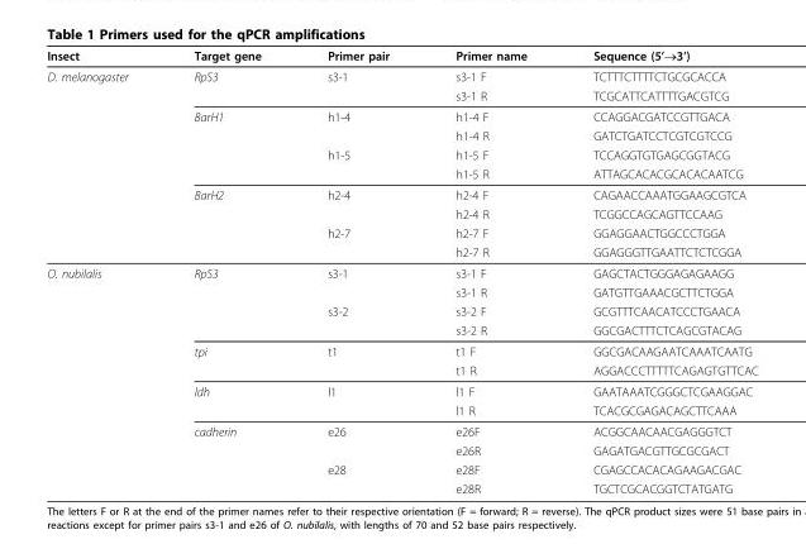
<table><thead><tr><td>Insect</td><td>Target gene</td><td>Primer pair</td><td>Primer name</td><td>Sequence (5’→3’)</td></tr></thead><tbody><tr><td rowspan="10">D. melanogaster</td><td>RpS3</td><td>s3-1</td><td>s3-1 F</td><td>TCTTTCTTTTCTGCGCACCA</td></tr><tr><td></td><td></td><td>s3-1 R</td><td>TCGCATTCATTTTGACGTCG</td></tr><tr><td>BarH1</td><td>h1-4</td><td>h1-4 F</td><td>CCAGGACGATCCGTTGACA</td></tr><tr><td></td><td></td><td>h1-4 R</td><td>GATCTGATCCTCGTCGTCCG</td></tr><tr><td></td><td>h1-5</td><td>h1-5 F</td><td>TCCAGGTGTGAGCGGTACG</td></tr><tr><td></td><td></td><td>h1-5 R</td><td>ATTAGCACACGCACACAATCG</td></tr><tr><td>BarH2</td><td>h2-4</td><td>h2-4 F</td><td>CAGAACCAAATGGAAGCGTCA</td></tr><tr><td></td><td></td><td>h2-4 R</td><td>TCGGCCAGCAGTTCCAAG</td></tr><tr><td></td><td>h2-7</td><td>h2-7 F</td><td>GGAGGAACTGGCCCTGGA</td></tr><tr><td></td><td></td><td>h2-7 R</td><td>GGAGGGTTGAATTCTCTCGGA</td></tr><tr><td rowspan="12">O. nubilalis</td><td>RpS3</td><td>s3-1</td><td>s3-1 F</td><td>GAGCTACTGGGAGAGAAGG</td></tr><tr><td></td><td></td><td>s3-1 R</td><td>GATGTTGAAACGCTTCTGGA</td></tr><tr><td></td><td>s3-2</td><td>s3-2 F</td><td>GCGTTTCAACATCCCTGAACA</td></tr><tr><td></td><td></td><td>s3-2 R</td><td>GGCGACTTTCTCAGCGTACAG</td></tr><tr><td>tpi</td><td>t1</td><td>t1 F</td><td>GGCGACAAGAATCAAATCAATG</td></tr><tr><td></td><td></td><td>t1 R</td><td>AGGACCCTTTTTCAGAGTGTTCAC</td></tr><tr><td>ldh</td><td>l1</td><td>l1 F</td><td>GAATAAATCGGGCTCGAAGGAC</td></tr><tr><td></td><td></td><td>l1 R</td><td>TCACGCGAGACAGCTTCAAA</td></tr><tr><td>cadherin</td><td>e26</td><td>e26F</td><td>ACGGCAACAACGAGGGTCT</td></tr><tr><td></td><td></td><td>e26R</td><td>GAGATGACGTTGCGCGACT</td></tr><tr><td></td><td>e28</td><td>e28F</td><td>CGAGCCACACAGAAGACGAC</td></tr><tr><td></td><td></td><td>e28R</td><td>TGCTCGCACGGTCTATGATG</td></tr></tbody></table>